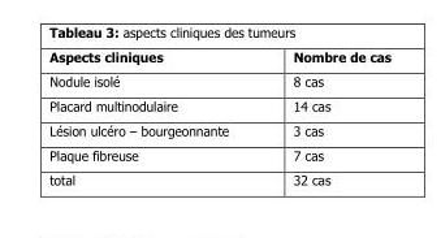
<table><thead><tr><td>Aspects cliniques</td><td>Nombre de cas</td></tr></thead><tbody><tr><td>Nodule isolé</td><td>8 cas</td></tr><tr><td>Placard multinodulaire</td><td>14 cas</td></tr><tr><td>Lésion ulcéro – bourgeonnante</td><td>3 cas</td></tr><tr><td>Plaque fibreuse</td><td>7 cas</td></tr><tr><td>total</td><td>32 cas</td></tr></tbody></table>